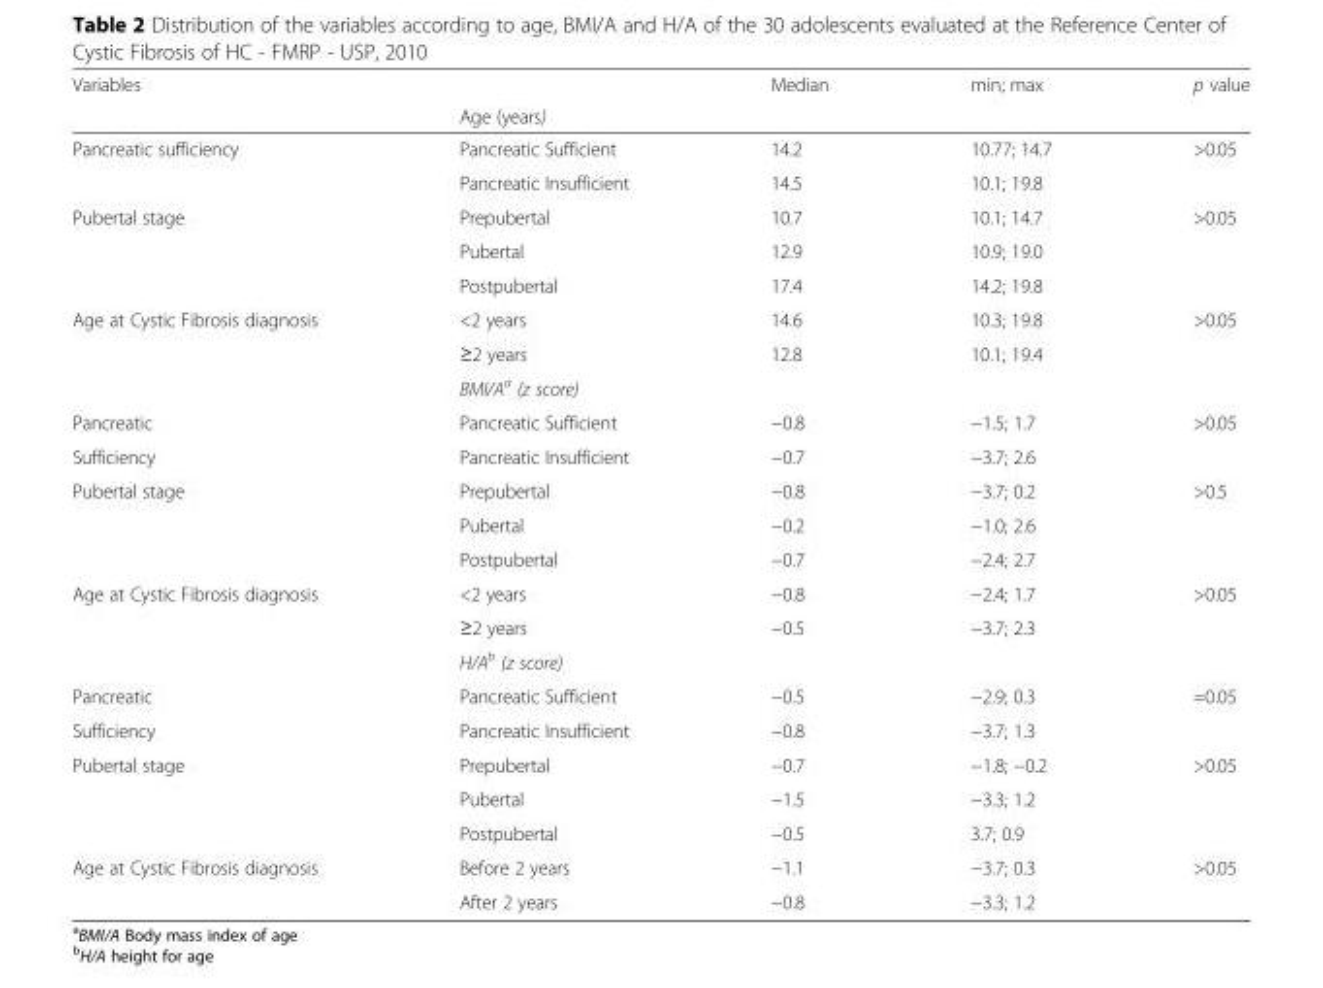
<table><thead><tr><td rowspan="2">Variables</td><td rowspan="2">Age (years)</td><td rowspan="2">Median</td><td rowspan="2">min; max</td><td rowspan="2">p value</td></tr><tr></tr></thead><tbody><tr><td rowspan="2">Pancreatic sufficiency</td><td>Pancreatic Sufficient</td><td>14.2</td><td>10.77; 14.7</td><td rowspan="2">&gt;0.05</td></tr><tr><td>Pancreatic Insufficient</td><td>14.5</td><td>10.1; 19.8</td></tr><tr><td rowspan="3">Pubertal stage</td><td>Prepubertal</td><td>10.7</td><td>10.1; 14.7</td><td rowspan="3">&gt;0.05</td></tr><tr><td>Pubertal</td><td>12.9</td><td>10.9; 19.0</td></tr><tr><td>Postpubertal</td><td>17.4</td><td>14.2; 19.8</td></tr><tr><td rowspan="3">Age at Cystic Fibrosis diagnosis</td><td>&lt;2 years</td><td>14.6</td><td>10.3; 19.8</td><td rowspan="2">&gt;0.05</td></tr><tr><td>≥2 years</td><td>12.8</td><td>10.1; 19.4</td></tr><tr><td>BMI/A<sup>a</sup> (z score)</td><td></td><td></td><td></td></tr><tr><td>Pancreatic</td><td>Pancreatic Sufficient</td><td>−0.8</td><td>−1.5; 1.7</td><td rowspan="2">&gt;0.05</td></tr><tr><td>Sufficiency</td><td>Pancreatic Insufficient</td><td>−0.7</td><td>−3.7; 2.6</td></tr><tr><td rowspan="3">Pubertal stage</td><td>Prepubertal</td><td>−0.8</td><td>−3.7; 0.2</td><td rowspan="3">&gt;0.5</td></tr><tr><td>Pubertal</td><td>−0.2</td><td>−1.0; 2.6</td></tr><tr><td>Postpubertal</td><td>−0.7</td><td>−2.4; 2.7</td></tr><tr><td rowspan="3">Age at Cystic Fibrosis diagnosis</td><td>&lt;2 years</td><td>−0.8</td><td>−2.4; 1.7</td><td rowspan="2">&gt;0.05</td></tr><tr><td>≥2 years</td><td>−0.5</td><td>−3.7; 2.3</td></tr><tr><td>H/A<sup>b</sup> (z score)</td><td></td><td></td><td></td></tr><tr><td>Pancreatic</td><td>Pancreatic Sufficient</td><td>−0.5</td><td>−2.9; 0.3</td><td rowspan="2">=0.05</td></tr><tr><td>Sufficiency</td><td>Pancreatic Insufficient</td><td>−0.8</td><td>−3.7; 1.3</td></tr><tr><td rowspan="3">Pubertal stage</td><td>Prepubertal</td><td>−0.7</td><td>−1.8; −0.2</td><td rowspan="3">&gt;0.05</td></tr><tr><td>Pubertal</td><td>−1.5</td><td>−3.3; 1.2</td></tr><tr><td>Postpubertal</td><td>−0.5</td><td>3.7; 0.9</td></tr><tr><td rowspan="2">Age at Cystic Fibrosis diagnosis</td><td>Before 2 years</td><td>−1.1</td><td>−3.7; 0.3</td><td rowspan="2">&gt;0.05</td></tr><tr><td>After 2 years</td><td>−0.8</td><td>−3.3; 1.2</td></tr></tbody></table>